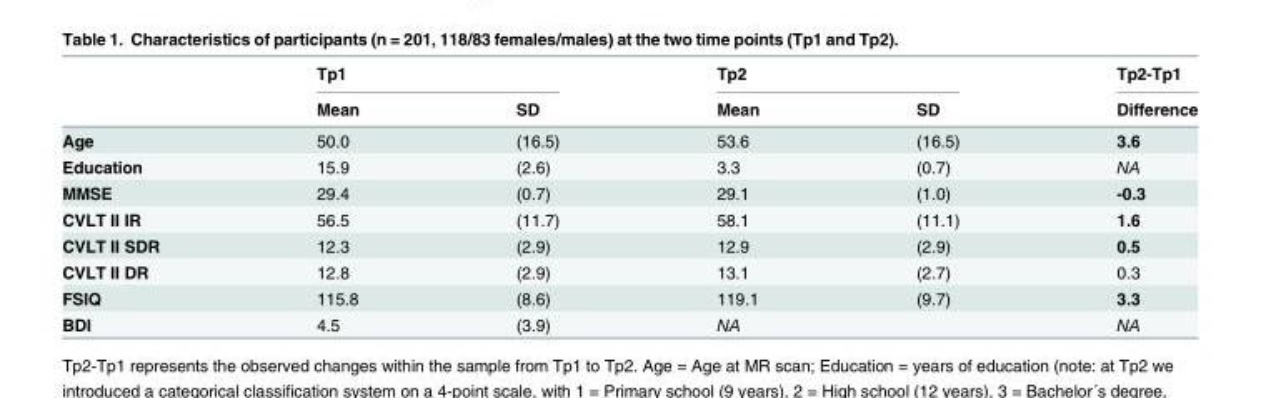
<table><thead><tr><td rowspan="2"></td><td colspan="2">Tp1</td><td colspan="2">Tp2</td><td rowspan="2">Tp2-Tp1 Difference</td></tr><tr><td>Mean</td><td>SD</td><td>Mean</td><td>SD</td></tr></thead><tbody><tr><td>Age</td><td>50.0</td><td>(16.5)</td><td>53.6</td><td>(16.5)</td><td>3.6</td></tr><tr><td>Education</td><td>15.9</td><td>(2.6)</td><td>3.3</td><td>(0.7)</td><td>NA</td></tr><tr><td>MMSE</td><td>29.4</td><td>(0.7)</td><td>29.1</td><td>(1.0)</td><td>-0.3</td></tr><tr><td>CVLT II IR</td><td>56.5</td><td>(11.7)</td><td>58.1</td><td>(11.1)</td><td>1.6</td></tr><tr><td>CVLT II SDR</td><td>12.3</td><td>(2.9)</td><td>12.9</td><td>(2.9)</td><td>0.5</td></tr><tr><td>CVLT II DR</td><td>12.8</td><td>(2.9)</td><td>13.1</td><td>(2.7)</td><td>0.3</td></tr><tr><td>FSIQ</td><td>115.8</td><td>(8.6)</td><td>119.1</td><td>(9.7)</td><td>3.3</td></tr><tr><td>BDI</td><td>4.5</td><td>(3.9)</td><td>NA</td><td></td><td>NA</td></tr></tbody></table>